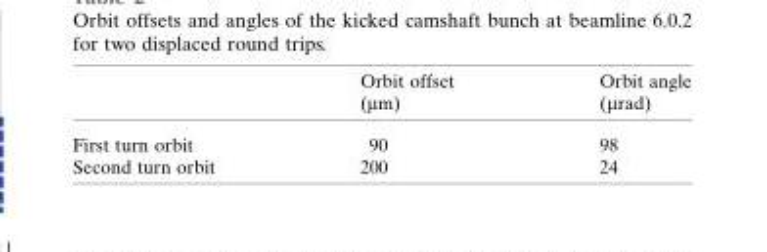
<table><thead><tr><td></td><td>Orbit offset (mm)</td><td>Orbit angle (mrad)</td></tr></thead><tbody><tr><td>First turn orbit</td><td>90</td><td>98</td></tr><tr><td>Second turn orbit</td><td>200</td><td>24</td></tr></tbody></table>